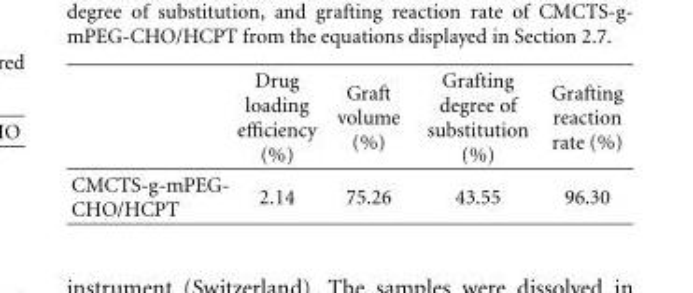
<table><thead><tr><td></td><td>Drug loading efficiency (%)</td><td>Graft volume (%)</td><td>Grafting degree of substitution (%)</td><td>Grafting reaction rate (%)</td></tr></thead><tbody><tr><td>CMCTS-g-mPEG- CHO/HCPT</td><td>2.14</td><td>75.26</td><td>43.55</td><td>96.30</td></tr></tbody></table>